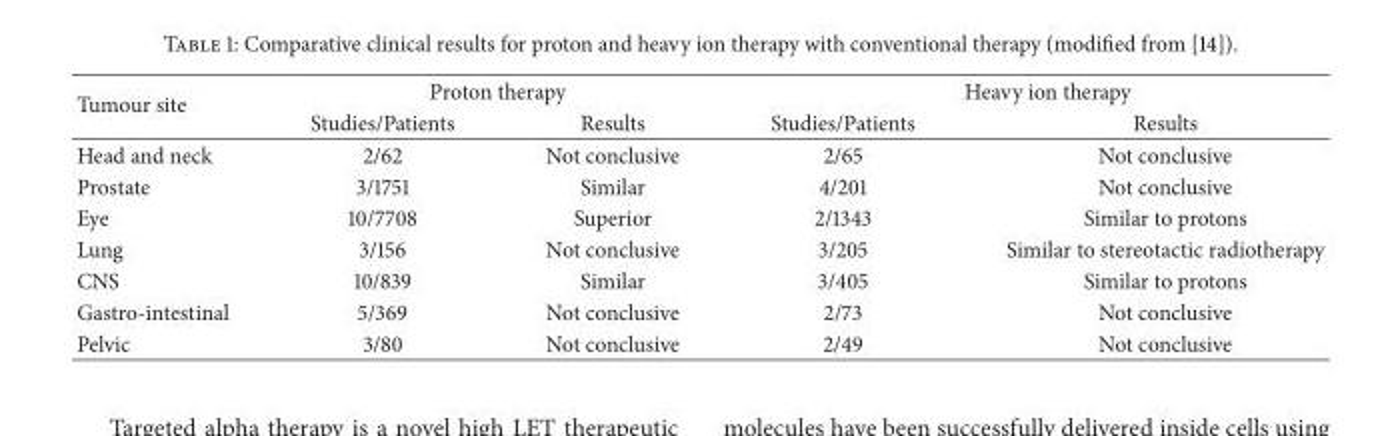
<table><thead><tr><td rowspan="2">Tumour site</td><td colspan="2">Proton therapy</td><td colspan="2">Heavy ion therapy</td></tr><tr><td>Studies/Patients</td><td>Results</td><td>Studies/Patients</td><td>Results</td></tr></thead><tbody><tr><td>Head and neck</td><td>2/62</td><td>Not conclusive</td><td>2/65</td><td>Not conclusive</td></tr><tr><td>Prostate</td><td>3/1751</td><td>Similar</td><td>4/201</td><td>Not conclusive</td></tr><tr><td>Eye</td><td>10/7708</td><td>Superior</td><td>2/1343</td><td>Similar to protons</td></tr><tr><td>Lung</td><td>3/156</td><td>Not conclusive</td><td>3/205</td><td>Similar to stereotactic radiotherapy</td></tr><tr><td>CNS</td><td>10/839</td><td>Similar</td><td>3/405</td><td>Similar to protons</td></tr><tr><td>Gastro-intestinal</td><td>5/369</td><td>Not conclusive</td><td>2/73</td><td>Not conclusive</td></tr><tr><td>Pelvic</td><td>3/80</td><td>Not conclusive</td><td>2/49</td><td>Not conclusive</td></tr></tbody></table>